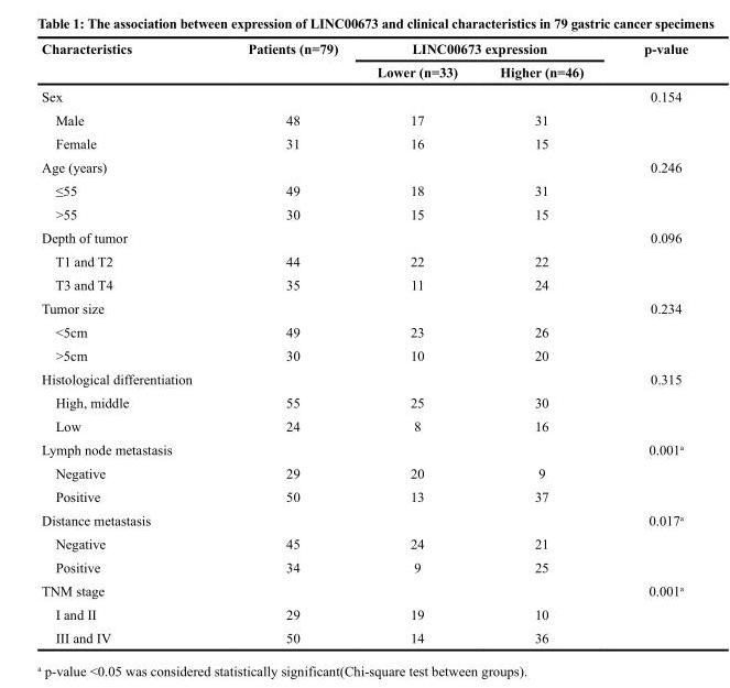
<table><thead><tr><td rowspan="2">Characteristics</td><td rowspan="2">Patients (n=79)</td><td colspan="2">LINC00673 expression</td><td rowspan="2">p-value</td></tr><tr><td>Lower (n=33)</td><td>Higher (n=46)</td></tr></thead><tbody><tr><td>Sex</td><td></td><td></td><td></td><td>0.154</td></tr><tr><td>Male</td><td>48</td><td>17</td><td>31</td><td></td></tr><tr><td>Female</td><td>31</td><td>16</td><td>15</td><td></td></tr><tr><td>Age (years)</td><td></td><td></td><td></td><td>0.246</td></tr><tr><td>≤55</td><td>49</td><td>18</td><td>31</td><td></td></tr><tr><td>&gt;55</td><td>30</td><td>15</td><td>15</td><td></td></tr><tr><td>Depth of tumor</td><td></td><td></td><td></td><td>0.096</td></tr><tr><td>T1 and T2</td><td>44</td><td>22</td><td>22</td><td></td></tr><tr><td>T3 and T4</td><td>35</td><td>11</td><td>24</td><td></td></tr><tr><td>Tumor size</td><td></td><td></td><td></td><td>0.234</td></tr><tr><td>&lt;5cm</td><td>49</td><td>23</td><td>26</td><td></td></tr><tr><td>&gt;5cm</td><td>30</td><td>10</td><td>20</td><td></td></tr><tr><td>Histological differentiation</td><td></td><td></td><td></td><td>0.315</td></tr><tr><td>High, middle</td><td>55</td><td>25</td><td>30</td><td></td></tr><tr><td>Low</td><td>24</td><td>8</td><td>16</td><td></td></tr><tr><td>Lymph node metastasis</td><td></td><td></td><td></td><td>0.001<sup>a</sup></td></tr><tr><td>Negative</td><td>29</td><td>20</td><td>9</td><td></td></tr><tr><td>Positive</td><td>50</td><td>13</td><td>37</td><td></td></tr><tr><td>Distance metastasis</td><td></td><td></td><td></td><td>0.017<sup>a</sup></td></tr><tr><td>Negative</td><td>45</td><td>24</td><td>21</td><td></td></tr><tr><td>Positive</td><td>34</td><td>9</td><td>25</td><td></td></tr><tr><td>TNM stage</td><td></td><td></td><td></td><td>0.001<sup>a</sup></td></tr><tr><td>I and II</td><td>29</td><td>19</td><td>10</td><td></td></tr><tr><td>III and IV</td><td>50</td><td>14</td><td>36</td><td></td></tr></tbody></table>